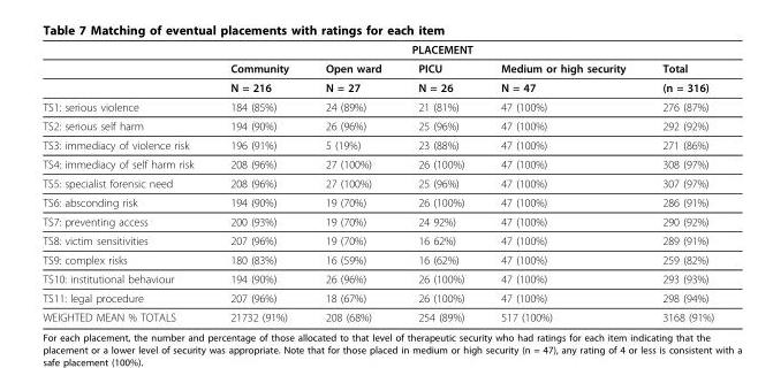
<table><thead><tr><td rowspan="2"></td><td colspan="4">PLACEMENT</td><td rowspan="2">Total</td></tr><tr><td>Community</td><td>Open ward</td><td>PICU</td><td>Medium or high security</td></tr></thead><tbody><tr><td></td><td>N = 216</td><td>N = 27</td><td>N = 26</td><td>N = 47</td><td>(n = 316)</td></tr><tr><td>TS1: serious violence</td><td>184 (85%)</td><td>24 (89%)</td><td>21 (81%)</td><td>47 (100%)</td><td>276 (87%)</td></tr><tr><td>TS2: serious self harm</td><td>194 (90%)</td><td>26 (96%)</td><td>25 (96%)</td><td>47 (100%)</td><td>292 (92%)</td></tr><tr><td>TS3: immediacy of violence risk</td><td>196 (91%)</td><td>5 (19%)</td><td>23 (88%)</td><td>47 (100%)</td><td>271 (86%)</td></tr><tr><td>TS4: immediacy of self harm risk</td><td>208 (96%)</td><td>27 (100%)</td><td>26 (100%)</td><td>47 (100%)</td><td>308 (97%)</td></tr><tr><td>TS5: specialist forensic need</td><td>208 (96%)</td><td>27 (100%)</td><td>25 (96%)</td><td>47 (100%)</td><td>307 (97%)</td></tr><tr><td>TS6: absconding risk</td><td>194 (90%)</td><td>19 (70%)</td><td>26 (100%)</td><td>47 (100%)</td><td>286 (91%)</td></tr><tr><td>TS7: preventing access</td><td>200 (93%)</td><td>19 (70%)</td><td>24 92%)</td><td>47 (100%)</td><td>290 (92%)</td></tr><tr><td>TS8: victim sensitivities</td><td>207 (96%)</td><td>19 (70%)</td><td>16 62%)</td><td>47 (100%)</td><td>289 (91%)</td></tr><tr><td>TS9: complex risks</td><td>180 (83%)</td><td>16 (59%)</td><td>16 (62%)</td><td>47 (100%)</td><td>259 (82%)</td></tr><tr><td>TS10: institutional behaviour</td><td>194 (90%)</td><td>26 (96%)</td><td>26 (100%)</td><td>47 (100%)</td><td>293 (93%)</td></tr><tr><td>TS11: legal procedure</td><td>207 (96%)</td><td>18 (67%)</td><td>26 (100%)</td><td>47 (100%)</td><td>298 (94%)</td></tr><tr><td>WEIGHTED MEAN % TOTALS</td><td>21732 (91%)</td><td>208 (68%)</td><td>254 (89%)</td><td>517 (100%)</td><td>3168 (91%)</td></tr></tbody></table>